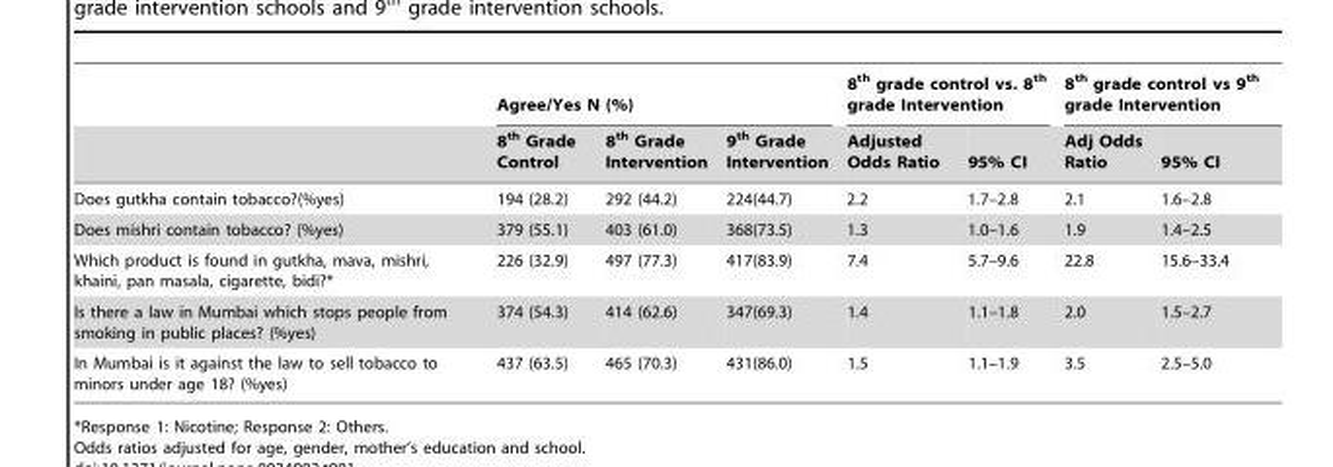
<table><thead><tr><td rowspan="2"></td><td colspan="3">Agree/Yes N (%)</td><td colspan="2">8<sup>th</sup> grade control vs. 8<sup>th</sup> grade Intervention</td><td colspan="2">8<sup>th</sup> grade control vs 9<sup>th</sup> grade Intervention</td></tr><tr><td>8<sup>th</sup> Grade Control</td><td>8<sup>th</sup> Grade Intervention</td><td>9<sup>th</sup> Grade Intervention</td><td>Adjusted Odds Ratio</td><td>95% CI</td><td>Adj Odds Ratio</td><td>95% CI</td></tr></thead><tbody><tr><td>Does gutkha contain tobacco?(%yes)</td><td>194 (28.2)</td><td>292 (44.2)</td><td>224(44.7)</td><td>2.2</td><td>1.7–2.8</td><td>2.1</td><td>1.6–2.8</td></tr><tr><td>Does mishri contain tobacco? (%yes)</td><td>379 (55.1)</td><td>403 (61.0)</td><td>368(73.5)</td><td>1.3</td><td>1.0–1.6</td><td>1.9</td><td>1.4–2.5</td></tr><tr><td>Which product is found in gutkha, mava, mishri, khaini, pan masala, cigarette, bidi?*</td><td>226 (32.9)</td><td>497 (77.3)</td><td>417(83.9)</td><td>7.4</td><td>5.7–9.6</td><td>22.8</td><td>15.6–33.4</td></tr><tr><td>Is there a law in Mumbai which stops people from smoking in public places? (%yes)</td><td>374 (54.3)</td><td>414 (62.6)</td><td>347(69.3)</td><td>1.4</td><td>1.1–1.8</td><td>2.0</td><td>1.5–2.7</td></tr><tr><td>In Mumbai is it against the law to sell tobacco to minors under age 18? (%yes)</td><td>437 (63.5)</td><td>465 (70.3)</td><td>431(86.0)</td><td>1.5</td><td>1.1–1.9</td><td>3.5</td><td>2.5–5.0</td></tr></tbody></table>